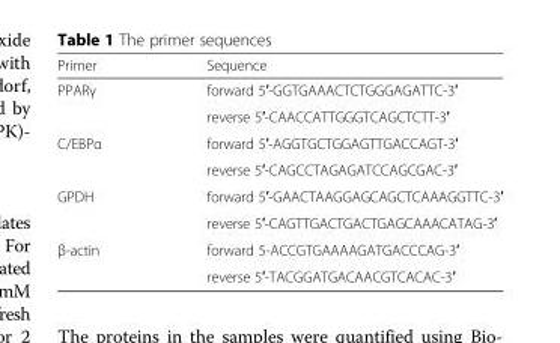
<table><thead><tr><td>Primer</td><td>Sequence</td></tr></thead><tbody><tr><td rowspan="2">PPARγ</td><td>forward 5′-GGTGAAACTCTGGGAGATTC-3′</td></tr><tr><td>reverse 5′-CAACCATTGGGTCAGCTCTT-3′</td></tr><tr><td rowspan="2">C/EBPα</td><td>forward 5′-AGGTGCTGGAGTTGACCAGT-3′</td></tr><tr><td>reverse 5′-CAGCCTAGAGATCCAGCGAC-3′</td></tr><tr><td rowspan="2">GPDH</td><td>forward 5′-GAACTAAGGAGCAGCTCAAAGGTTC-3′</td></tr><tr><td>reverse 5′-CAGTTGACTGACTGAGCAAACATAG-3′</td></tr><tr><td rowspan="2">β-actin</td><td>forward 5-ACCGTGAAAAGATGACCCAG-3′</td></tr><tr><td>reverse 5′-TACGGATGACAACGTCACAC-3′</td></tr></tbody></table>